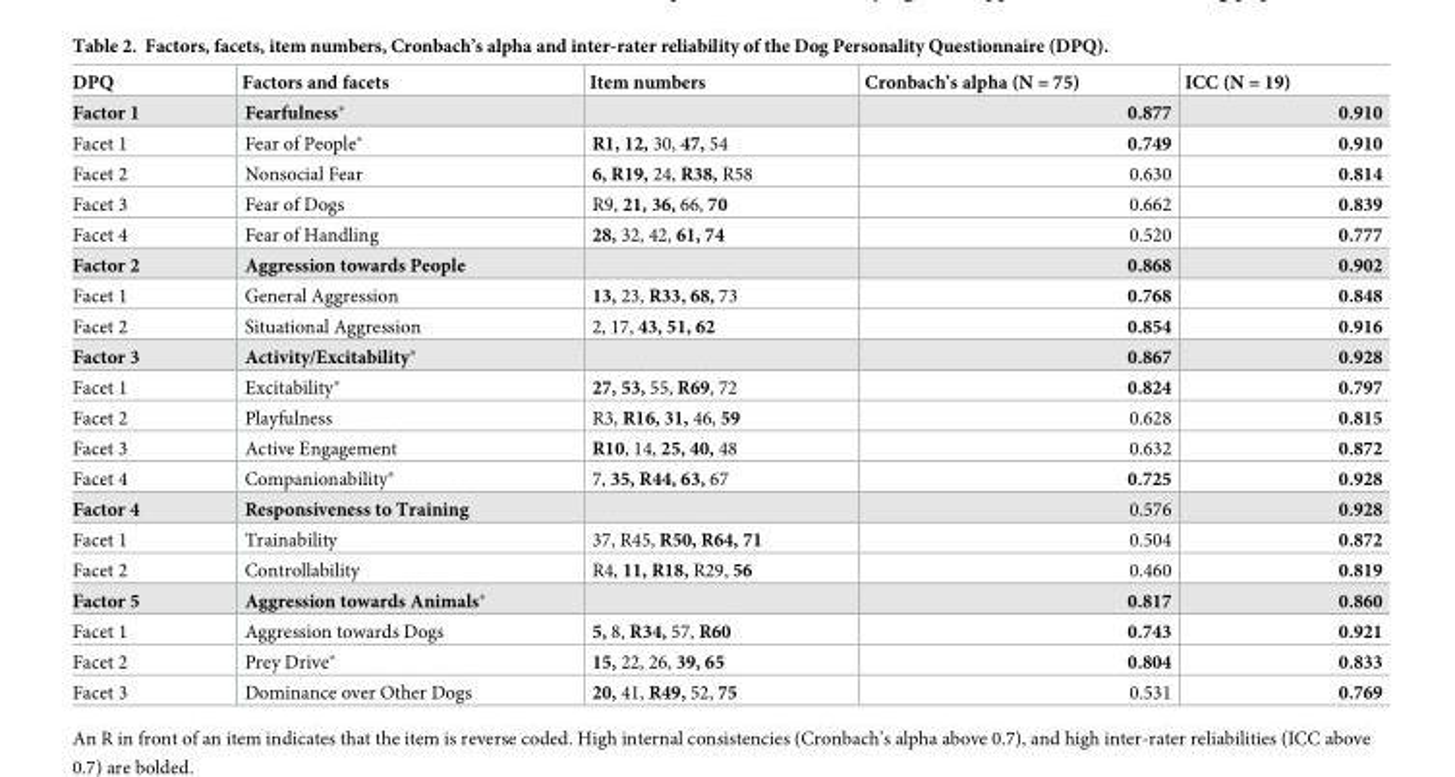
<table><thead><tr><td>DPQ</td><td>Factors and facets</td><td>Item numbers</td><td>Cronbach’s alpha (N = 75)</td><td>ICC (N = 19)</td></tr></thead><tbody><tr><td>Factor 1</td><td>Fearfulness*</td><td></td><td>0.877</td><td>0.910</td></tr><tr><td>Facet 1</td><td>Fear of People*</td><td>R1, 12, 30, 47, 54</td><td>0.749</td><td>0.910</td></tr><tr><td>Facet 2</td><td>Nonsocial Fear</td><td>6, R19, 24, R38, R58</td><td>0.630</td><td>0.814</td></tr><tr><td>Facet 3</td><td>Fear of Dogs</td><td>R9, 21, 36, 66, 70</td><td>0.662</td><td>0.839</td></tr><tr><td>Facet 4</td><td>Fear of Handling</td><td>28, 32, 42, 61, 74</td><td>0.520</td><td>0.777</td></tr><tr><td>Factor 2</td><td>Aggression towards People</td><td></td><td>0.868</td><td>0.902</td></tr><tr><td>Facet 1</td><td>General Aggression</td><td>13, 23, R33, 68, 73</td><td>0.768</td><td>0.848</td></tr><tr><td>Facet 2</td><td>Situational Aggression</td><td>2, 17, 43, 51, 62</td><td>0.854</td><td>0.916</td></tr><tr><td>Factor 3</td><td>Activity/Excitability*</td><td></td><td>0.867</td><td>0.928</td></tr><tr><td>Facet 1</td><td>Excitability*</td><td>27, 53, 55, R69, 72</td><td>0.824</td><td>0.797</td></tr><tr><td>Facet 2</td><td>Playfulness</td><td>R3, R16, 31, 46, 59</td><td>0.628</td><td>0.815</td></tr><tr><td>Facet 3</td><td>Active Engagement</td><td>R10, 14, 25, 40, 48</td><td>0.632</td><td>0.872</td></tr><tr><td>Facet 4</td><td>Companionability*</td><td>7, 35, R44, 63, 67</td><td>0.725</td><td>0.928</td></tr><tr><td>Factor 4</td><td>Responsiveness to Training</td><td></td><td>0.576</td><td>0.928</td></tr><tr><td>Facet 1</td><td>Trainability</td><td>37, R45, R50, R64, 71</td><td>0.504</td><td>0.872</td></tr><tr><td>Facet 2</td><td>Controllability</td><td>R4, 11, R18, R29, 56</td><td>0.460</td><td>0.819</td></tr><tr><td>Factor 5</td><td>Aggression towards Animals*</td><td></td><td>0.817</td><td>0.860</td></tr><tr><td>Facet 1</td><td>Aggression towards Dogs</td><td>5, 8, R34, 57, R60</td><td>0.743</td><td>0.921</td></tr><tr><td>Facet 2</td><td>Prey Drive*</td><td>15, 22, 26, 39, 65</td><td>0.804</td><td>0.833</td></tr><tr><td>Facet 3</td><td>Dominance over Other Dogs</td><td>20, 41, R49, 52, 75</td><td>0.531</td><td>0.769</td></tr></tbody></table>